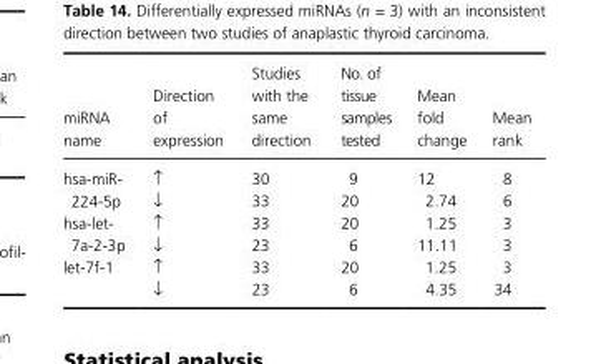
<table><thead><tr><td>miRNA name</td><td>Direction of expression</td><td>Studies with the same direction</td><td>No. of tissue samples tested</td><td>Mean fold change</td><td>Mean rank</td></tr></thead><tbody><tr><td rowspan="2">hsa- miR- 224- 5p</td><td>↑</td><td>30</td><td>9</td><td>12</td><td>8</td></tr><tr><td>↓</td><td>33</td><td>20</td><td>2.74</td><td>6</td></tr><tr><td rowspan="2">hsa- let- 7a- 2- 3p</td><td>↑</td><td>33</td><td>20</td><td>1.25</td><td>3</td></tr><tr><td>↓</td><td>23</td><td>6</td><td>11.11</td><td>3</td></tr><tr><td rowspan="2">let- 7f- 1</td><td>↑</td><td>33</td><td>20</td><td>1.25</td><td>3</td></tr><tr><td>↓</td><td>23</td><td>6</td><td>4.35</td><td>34</td></tr></tbody></table>